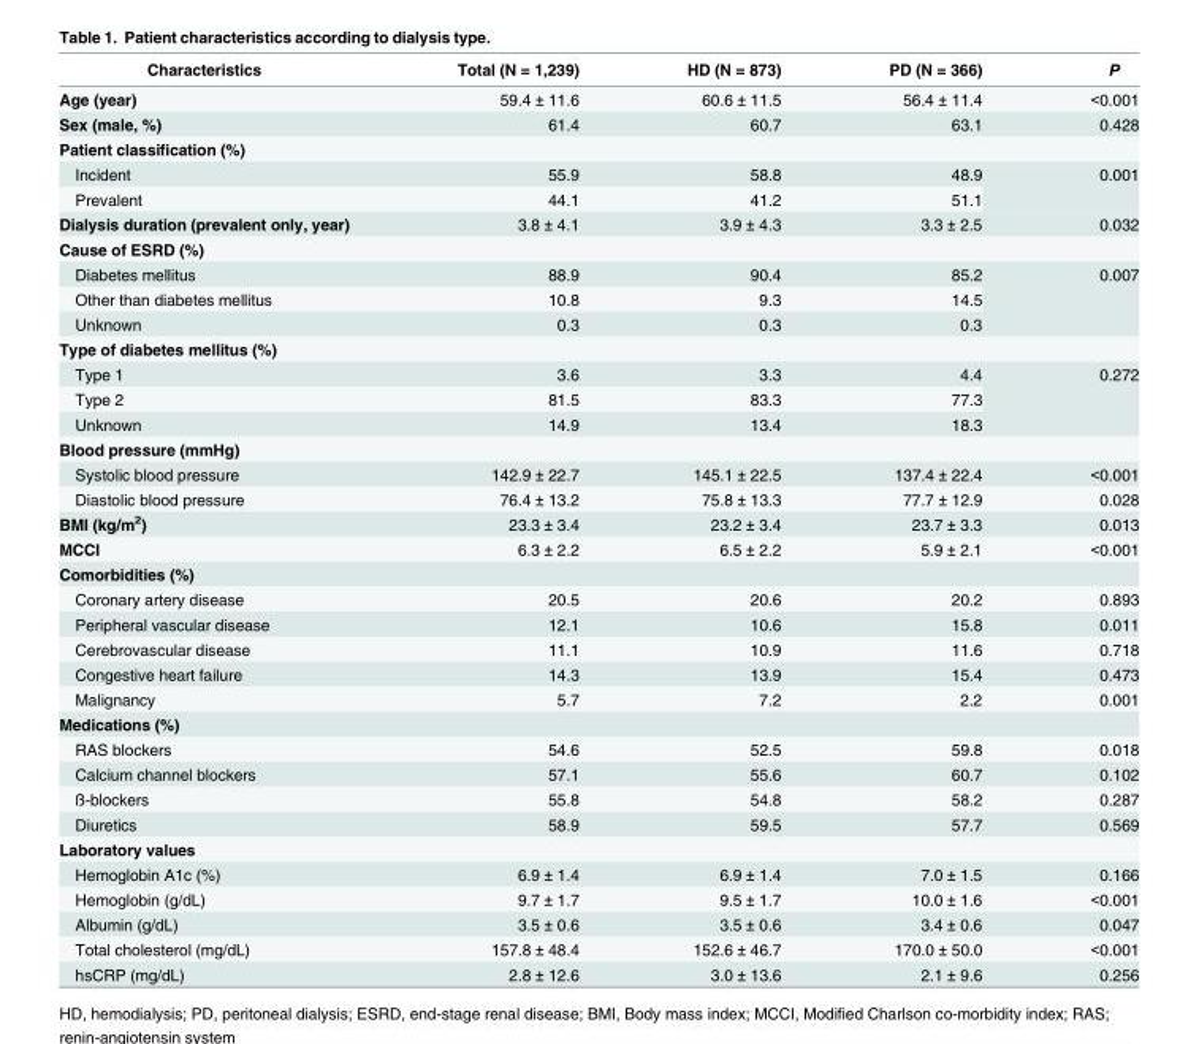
<table><thead><tr><td>Characteristics</td><td>Total (N = 1,239)</td><td>HD (N = 873)</td><td>PD (N = 366)</td><td>P</td></tr></thead><tbody><tr><td>Age (year)</td><td>59.4 ± 11.6</td><td>60.6 ± 11.5</td><td>56.4 ± 11.4</td><td>&lt;0.001</td></tr><tr><td>Sex (male, %)</td><td>61.4</td><td>60.7</td><td>63.1</td><td>0.428</td></tr><tr><td colspan="5">Patient classification (%)</td></tr><tr><td>Incident</td><td>55.9</td><td>58.8</td><td>48.9</td><td rowspan="2">0.001</td></tr><tr><td>Prevalent</td><td>44.1</td><td>41.2</td><td>51.1</td></tr><tr><td>Dialysis duration (prevalent only, year)</td><td>3.8 ± 4.1</td><td>3.9 ± 4.3</td><td>3.3 ± 2.5</td><td>0.032</td></tr><tr><td colspan="5">Cause of ESRD (%)</td></tr><tr><td>Diabetes mellitus</td><td>88.9</td><td>90.4</td><td>85.2</td><td rowspan="3">0.007</td></tr><tr><td>Other than diabetes mellitus</td><td>10.8</td><td>9.3</td><td>14.5</td></tr><tr><td>Unknown</td><td>0.3</td><td>0.3</td><td>0.3</td></tr><tr><td colspan="5">Type of diabetes mellitus (%)</td></tr><tr><td>Type 1</td><td>3.6</td><td>3.3</td><td>4.4</td><td rowspan="3">0.272</td></tr><tr><td>Type 2</td><td>81.5</td><td>83.3</td><td>77.3</td></tr><tr><td>Unknown</td><td>14.9</td><td>13.4</td><td>18.3</td></tr><tr><td colspan="5">Blood pressure (mmHg)</td></tr><tr><td>Systolic blood pressure</td><td>142.9 ± 22.7</td><td>145.1 ± 22.5</td><td>137.4 ± 22.4</td><td>&lt;0.001</td></tr><tr><td>Diastolic blood pressure</td><td>76.4 ± 13.2</td><td>75.8 ± 13.3</td><td>77.7 ± 12.9</td><td>0.028</td></tr><tr><td>BMI (kg/m<sup>2</sup>)</td><td>23.3 ± 3.4</td><td>23.2 ± 3.4</td><td>23.7 ± 3.3</td><td>0.013</td></tr><tr><td>MCCI</td><td>6.3 ± 2.2</td><td>6.5 ± 2.2</td><td>5.9 ± 2.1</td><td>&lt;0.001</td></tr><tr><td colspan="5">Comorbidities (%)</td></tr><tr><td>Coronary artery disease</td><td>20.5</td><td>20.6</td><td>20.2</td><td>0.893</td></tr><tr><td>Peripheral vascular disease</td><td>12.1</td><td>10.6</td><td>15.8</td><td>0.011</td></tr><tr><td>Cerebrovascular disease</td><td>11.1</td><td>10.9</td><td>11.6</td><td>0.718</td></tr><tr><td>Congestive heart failure</td><td>14.3</td><td>13.9</td><td>15.4</td><td>0.473</td></tr><tr><td>Malignancy</td><td>5.7</td><td>7.2</td><td>2.2</td><td>0.001</td></tr><tr><td colspan="5">Medications (%)</td></tr><tr><td>RAS blockers</td><td>54.6</td><td>52.5</td><td>59.8</td><td>0.018</td></tr><tr><td>Calcium channel blockers</td><td>57.1</td><td>55.6</td><td>60.7</td><td>0.102</td></tr><tr><td>ß-blockers</td><td>55.8</td><td>54.8</td><td>58.2</td><td>0.287</td></tr><tr><td>Diuretics</td><td>58.9</td><td>59.5</td><td>57.7</td><td>0.569</td></tr><tr><td colspan="5">Laboratory values</td></tr><tr><td>Hemoglobin A1c (%)</td><td>6.9 ± 1.4</td><td>6.9 ± 1.4</td><td>7.0 ± 1.5</td><td>0.166</td></tr><tr><td>Hemoglobin (g/dL)</td><td>9.7 ± 1.7</td><td>9.5 ± 1.7</td><td>10.0 ± 1.6</td><td>&lt;0.001</td></tr><tr><td>Albumin (g/dL)</td><td>3.5 ± 0.6</td><td>3.5 ± 0.6</td><td>3.4 ± 0.6</td><td>0.047</td></tr><tr><td>Total cholesterol (mg/dL)</td><td>157.8 ± 48.4</td><td>152.6 ± 46.7</td><td>170.0 ± 50.0</td><td>&lt;0.001</td></tr><tr><td>hsCRP (mg/dL)</td><td>2.8 ± 12.6</td><td>3.0 ± 13.6</td><td>2.1 ± 9.6</td><td>0.256</td></tr></tbody></table>